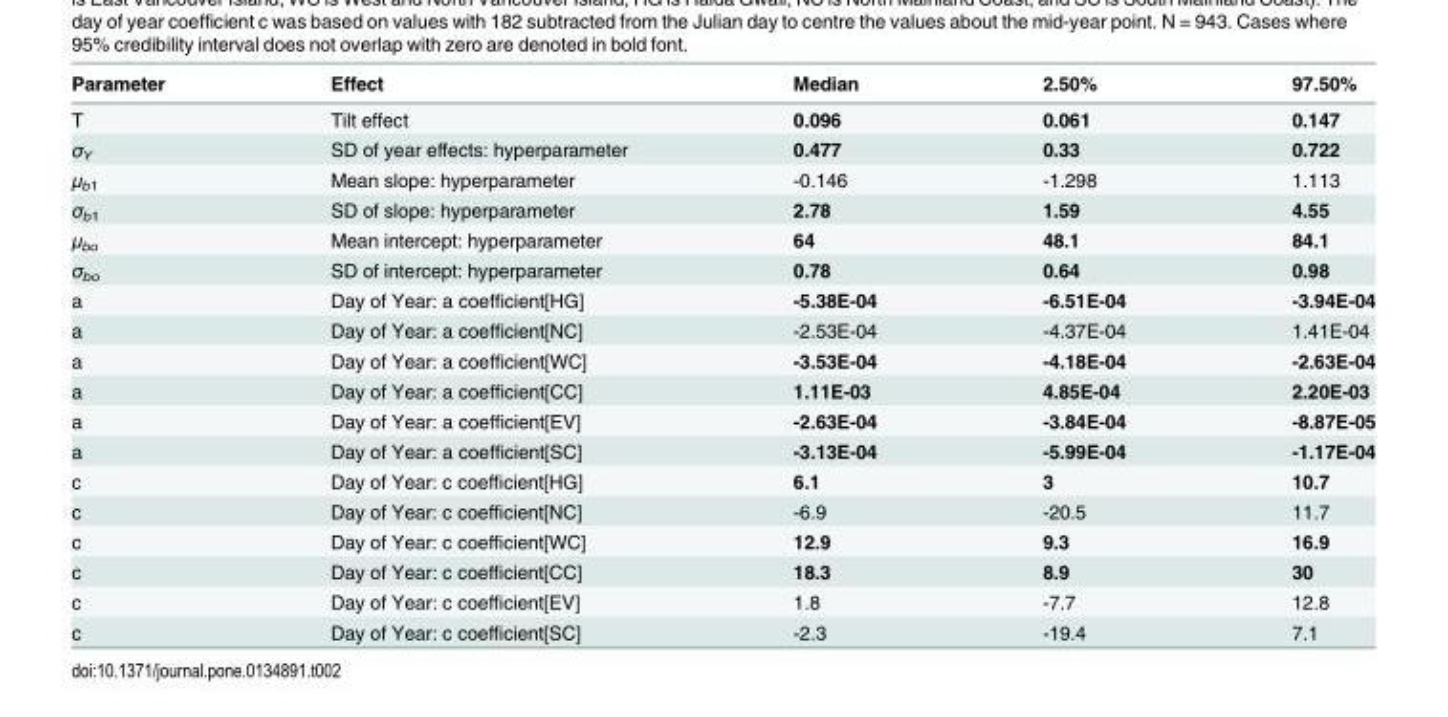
<table><thead><tr><td>Parameter</td><td>Effect</td><td>Median</td><td>2.50%</td><td>97.50%</td></tr></thead><tbody><tr><td>T</td><td>Tilt effect</td><td>0.096</td><td>0.061</td><td>0.147</td></tr><tr><td>σ<sub>Y</sub></td><td>SD of year effects: hyperparameter</td><td>0.477</td><td>0.33</td><td>0.722</td></tr><tr><td>μ<sub>b1</sub></td><td>Mean slope: hyperparameter</td><td>-0.146</td><td>-1.298</td><td>1.113</td></tr><tr><td>σ<sub>b1</sub></td><td>SD of slope: hyperparameter</td><td>2.78</td><td>1.59</td><td>4.55</td></tr><tr><td>μ<sub>bo</sub></td><td>Mean intercept: hyperparameter</td><td>64</td><td>48.1</td><td>84.1</td></tr><tr><td>σ<sub>bo</sub></td><td>SD of intercept: hyperparameter</td><td>0.78</td><td>0.64</td><td>0.98</td></tr><tr><td>a</td><td>Day of Year: a coefficient[HG]</td><td>-5.38E-04</td><td>-6.51E-04</td><td>-3.94E-04</td></tr><tr><td>a</td><td>Day of Year: a coefficient[NC]</td><td>-2.53E-04</td><td>-4.37E-04</td><td>1.41E-04</td></tr><tr><td>a</td><td>Day of Year: a coefficient[WC]</td><td>-3.53E-04</td><td>-4.18E-04</td><td>-2.63E-04</td></tr><tr><td>a</td><td>Day of Year: a coefficient[CC]</td><td>1.11E-03</td><td>4.85E-04</td><td>2.20E-03</td></tr><tr><td>a</td><td>Day of Year: a coefficient[EV]</td><td>-2.63E-04</td><td>-3.84E-04</td><td>-8.87E-05</td></tr><tr><td>a</td><td>Day of Year: a coefficient[SC]</td><td>-3.13E-04</td><td>-5.99E-04</td><td>-1.17E-04</td></tr><tr><td>c</td><td>Day of Year: c coefficient[HG]</td><td>6.1</td><td>3</td><td>10.7</td></tr><tr><td>c</td><td>Day of Year: c coefficient[NC]</td><td>-6.9</td><td>-20.5</td><td>11.7</td></tr><tr><td>c</td><td>Day of Year: c coefficient[WC]</td><td>12.9</td><td>9.3</td><td>16.9</td></tr><tr><td>c</td><td>Day of Year: c coefficient[CC]</td><td>18.3</td><td>8.9</td><td>30</td></tr><tr><td>c</td><td>Day of Year: c coefficient[EV]</td><td>1.8</td><td>-7.7</td><td>12.8</td></tr><tr><td>c</td><td>Day of Year: c coefficient[SC]</td><td>-2.3</td><td>-19.4</td><td>7.1</td></tr></tbody></table>